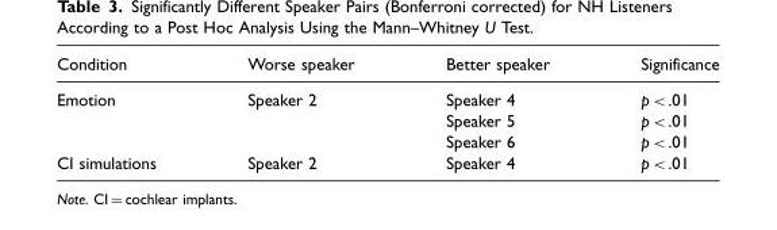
<table><thead><tr><td>Condition</td><td>Worse speaker</td><td>Better speaker</td><td>Significance</td></tr></thead><tbody><tr><td rowspan="3">Emotion</td><td>Speaker 2</td><td>Speaker 4</td><td>p &lt;.01</td></tr><tr><td></td><td>Speaker 5</td><td>p &lt;.01</td></tr><tr><td></td><td>Speaker 6</td><td>p &lt;.01</td></tr><tr><td>CI simulations</td><td>Speaker 2</td><td>Speaker 4</td><td>p &lt;.01</td></tr></tbody></table>